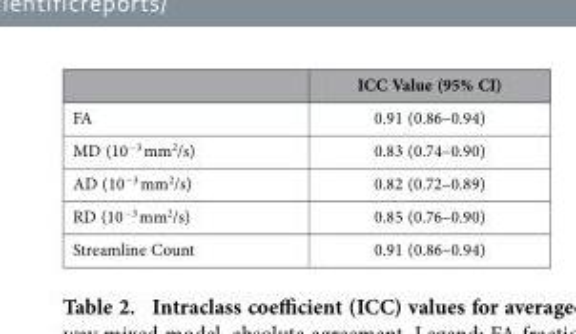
<table><thead><tr><td></td><td>ICC Value (95% CI)</td></tr></thead><tbody><tr><td>FA</td><td>0.91 (0.86–0.94)</td></tr><tr><td>MD (10<sup>−3</sup> mm<sup>2</sup>/s)</td><td>0.83 (0.74–0.90)</td></tr><tr><td>AD (10<sup>−3</sup> mm<sup>2</sup>/s)</td><td>0.82 (0.72–0.89)</td></tr><tr><td>RD (10<sup>−3</sup> mm<sup>2</sup>/s)</td><td>0.85 (0.76–0.90)</td></tr><tr><td>Streamline Count</td><td>0.91 (0.86–0.94)</td></tr></tbody></table>